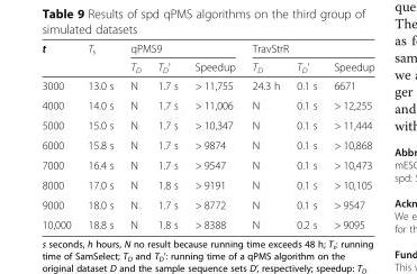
<table><thead><tr><td rowspan="2">t</td><td rowspan="2">T<sub>s</sub></td><td colspan="3">qPMS9</td><td colspan="3">TravStrR</td></tr><tr><td>T<sub>D</sub></td><td>T<sub>D</sub>’</td><td>Speedup</td><td>T<sub>D</sub></td><td>T<sub>D</sub>’</td><td>Speedup</td></tr></thead><tbody><tr><td>3000</td><td>13.0 s</td><td>N</td><td>1.7 s</td><td>&gt; 11,755</td><td>24.3 h</td><td>0.1 s</td><td>6671</td></tr><tr><td>4000</td><td>14.0 s</td><td>N</td><td>1.7 s</td><td>&gt; 11,006</td><td>N</td><td>0.1 s</td><td>&gt; 12,255</td></tr><tr><td>5000</td><td>15.0 s</td><td>N</td><td>1.7 s</td><td>&gt; 10,347</td><td>N</td><td>0.1 s</td><td>&gt; 11,444</td></tr><tr><td>6000</td><td>15.8 s</td><td>N</td><td>1.7 s</td><td>&gt; 9874</td><td>N</td><td>0.1 s</td><td>&gt; 10,868</td></tr><tr><td>7000</td><td>16.4 s</td><td>N</td><td>1.7 s</td><td>&gt; 9547</td><td>N</td><td>0.1 s</td><td>&gt; 10,473</td></tr><tr><td>8000</td><td>17.0 s</td><td>N</td><td>1.8 s</td><td>&gt; 9191</td><td>N</td><td>0.1 s</td><td>&gt; 10,105</td></tr><tr><td>9000</td><td>18.0 s</td><td>N</td><td>1.7 s</td><td>&gt; 8772</td><td>N</td><td>0.1 s</td><td>&gt; 9547</td></tr><tr><td>10,000</td><td>18.8 s</td><td>N</td><td>1.8 s</td><td>&gt; 8388</td><td>N</td><td>0.2 s</td><td>&gt; 9095</td></tr></tbody></table>